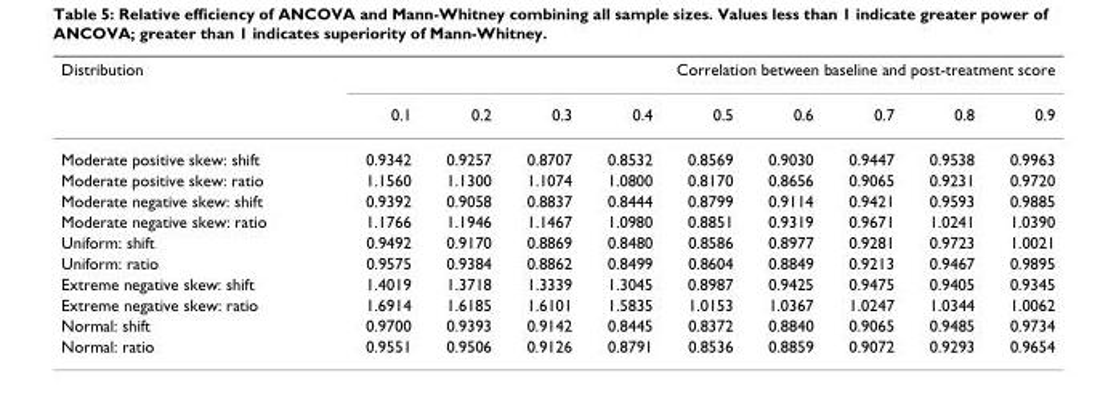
<table><thead><tr><td rowspan="2">Distribution</td><td colspan="9">Correlation between baseline and post-treatment score</td></tr><tr><td>0.1</td><td>0.2</td><td>0.3</td><td>0.4</td><td>0.5</td><td>0.6</td><td>0.7</td><td>0.8</td><td>0.9</td></tr></thead><tbody><tr><td>Moderate positive skew: shift</td><td>0.9342</td><td>0.9257</td><td>0.8707</td><td>0.8532</td><td>0.8569</td><td>0.9030</td><td>0.9447</td><td>0.9538</td><td>0.9963</td></tr><tr><td>Moderate positive skew: ratio</td><td>1.1560</td><td>1.1300</td><td>1.1074</td><td>1.0800</td><td>0.8170</td><td>0.8656</td><td>0.9065</td><td>0.9231</td><td>0.9720</td></tr><tr><td>Moderate negative skew: shift</td><td>0.9392</td><td>0.9058</td><td>0.8837</td><td>0.8444</td><td>0.8799</td><td>0.9114</td><td>0.9421</td><td>0.9593</td><td>0.9885</td></tr><tr><td>Moderate negative skew: ratio</td><td>1.1766</td><td>1.1946</td><td>1.1467</td><td>1.0980</td><td>0.8851</td><td>0.9319</td><td>0.9671</td><td>1.0241</td><td>1.0390</td></tr><tr><td>Uniform: shift</td><td>0.9492</td><td>0.9170</td><td>0.8869</td><td>0.8480</td><td>0.8586</td><td>0.8977</td><td>0.9281</td><td>0.9723</td><td>1.0021</td></tr><tr><td>Uniform: ratio</td><td>0.9575</td><td>0.9384</td><td>0.8862</td><td>0.8499</td><td>0.8604</td><td>0.8849</td><td>0.9213</td><td>0.9467</td><td>0.9895</td></tr><tr><td>Extreme negative skew: shift</td><td>1.4019</td><td>1.3718</td><td>1.3339</td><td>1.3045</td><td>0.8987</td><td>0.9425</td><td>0.9475</td><td>0.9405</td><td>0.9345</td></tr><tr><td>Extreme negative skew: ratio</td><td>1.6914</td><td>1.6185</td><td>1.6101</td><td>1.5835</td><td>1.0153</td><td>1.0367</td><td>1.0247</td><td>1.0344</td><td>1.0062</td></tr><tr><td>Normal: shift</td><td>0.9700</td><td>0.9393</td><td>0.9142</td><td>0.8445</td><td>0.8372</td><td>0.8840</td><td>0.9065</td><td>0.9485</td><td>0.9734</td></tr><tr><td>Normal: ratio</td><td>0.9551</td><td>0.9506</td><td>0.9126</td><td>0.8791</td><td>0.8536</td><td>0.8859</td><td>0.9072</td><td>0.9293</td><td>0.9654</td></tr></tbody></table>